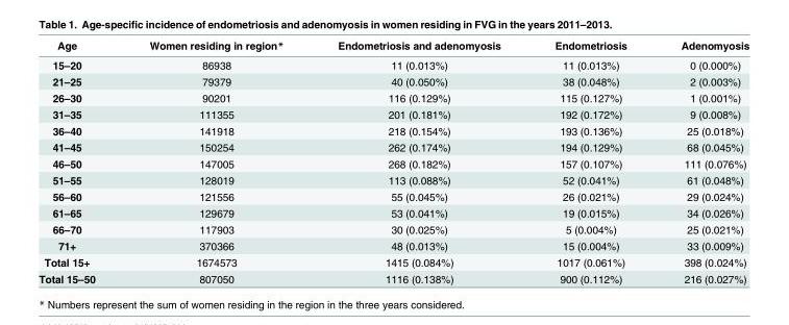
<table><thead><tr><td>Age</td><td>Women residing in region*</td><td>Endometriosis and adenomyosis</td><td>Endometriosis</td><td>Adenomyosis</td></tr></thead><tbody><tr><td>15–20</td><td>86938</td><td>11 (0.013%)</td><td>11 (0.013%)</td><td>0 (0.000%)</td></tr><tr><td>21–25</td><td>79379</td><td>40 (0.050%)</td><td>38 (0.048%)</td><td>2 (0.003%)</td></tr><tr><td>26–30</td><td>90201</td><td>116 (0.129%)</td><td>115 (0.127%)</td><td>1 (0.001%)</td></tr><tr><td>31–35</td><td>111355</td><td>201 (0.181%)</td><td>192 (0.172%)</td><td>9 (0.008%)</td></tr><tr><td>36–40</td><td>141918</td><td>218 (0.154%)</td><td>193 (0.136%)</td><td>25 (0.018%)</td></tr><tr><td>41–45</td><td>150254</td><td>262 (0.174%)</td><td>194 (0.129%)</td><td>68 (0.045%)</td></tr><tr><td>46–50</td><td>147005</td><td>268 (0.182%)</td><td>157 (0.107%)</td><td>111 (0.076%)</td></tr><tr><td>51–55</td><td>128019</td><td>113 (0.088%)</td><td>52 (0.041%)</td><td>61 (0.048%)</td></tr><tr><td>56–60</td><td>121556</td><td>55 (0.045%)</td><td>26 (0.021%)</td><td>29 (0.024%)</td></tr><tr><td>61–65</td><td>129679</td><td>53 (0.041%)</td><td>19 (0.015%)</td><td>34 (0.026%)</td></tr><tr><td>66–70</td><td>117903</td><td>30 (0.025%)</td><td>5 (0.004%)</td><td>25 (0.021%)</td></tr><tr><td>71+</td><td>370366</td><td>48 (0.013%)</td><td>15 (0.004%)</td><td>33 (0.009%)</td></tr><tr><td>Total 15+</td><td>1674573</td><td>1415 (0.084%)</td><td>1017 (0.061%)</td><td>398 (0.024%)</td></tr><tr><td>Total 15–50</td><td>807050</td><td>1116 (0.138%)</td><td>900 (0.112%)</td><td>216 (0.027%)</td></tr></tbody></table>